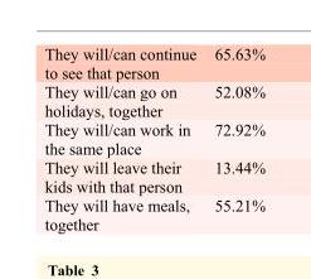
<table><tbody><tr><td>They will/can continue to see that person</td><td>65.63%</td></tr><tr><td>They will/can go on holidays, together</td><td>52.08%</td></tr><tr><td>They will/can work in the same place</td><td>72.92%</td></tr><tr><td>They will leave their kids with that person</td><td>13.44%</td></tr><tr><td>They will have meals, together</td><td>55.21%</td></tr></tbody></table>